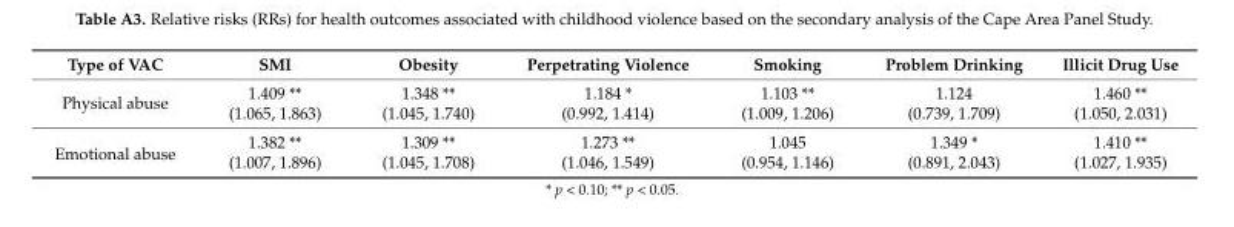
<table><thead><tr><td>Type of VAC</td><td>SMI</td><td>Obesity</td><td>Perpetrating Violence</td><td>Smoking</td><td>Problem Drinking</td><td>Illicit Drug Use</td></tr></thead><tbody><tr><td rowspan="2">Physical abuse</td><td>1.409 **</td><td>1.348 **</td><td>1.184 *</td><td>1.103 **</td><td>1.124</td><td>1.460 **</td></tr><tr><td>(1.065, 1.863)</td><td>(1.045, 1.740)</td><td>(0.992, 1.414)</td><td>(1.009, 1.206)</td><td>(0.739, 1.709)</td><td>(1.050, 2.031)</td></tr><tr><td rowspan="2">Emotional abuse</td><td>1.382 **</td><td>1.309 **</td><td>1.273 **</td><td>1.045</td><td>1.349 *</td><td>1.410 **</td></tr><tr><td>(1.007, 1.896)</td><td>(1.045, 1.708)</td><td>(1.046, 1.549)</td><td>(0.954, 1.146)</td><td>(0.891, 2.043)</td><td>(1.027, 1.935)</td></tr></tbody></table>